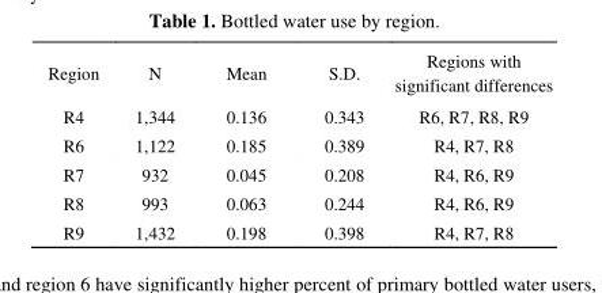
<table><thead><tr><td>Region</td><td>N</td><td>Mean</td><td>S.D.</td><td>Regions with significant differences</td></tr></thead><tbody><tr><td>R4</td><td>1,344</td><td>0.136</td><td>0.343</td><td>R6, R7, R8, R9</td></tr><tr><td>R6</td><td>1,122</td><td>0.185</td><td>0.389</td><td>R4, R7, R8</td></tr><tr><td>R7</td><td>932</td><td>0.045</td><td>0.208</td><td>R4, R6, R9</td></tr><tr><td>R8</td><td>993</td><td>0.063</td><td>0.244</td><td>R4, R6, R9</td></tr><tr><td>R9</td><td>1,432</td><td>0.198</td><td>0.398</td><td>R4, R7, R8</td></tr></tbody></table>